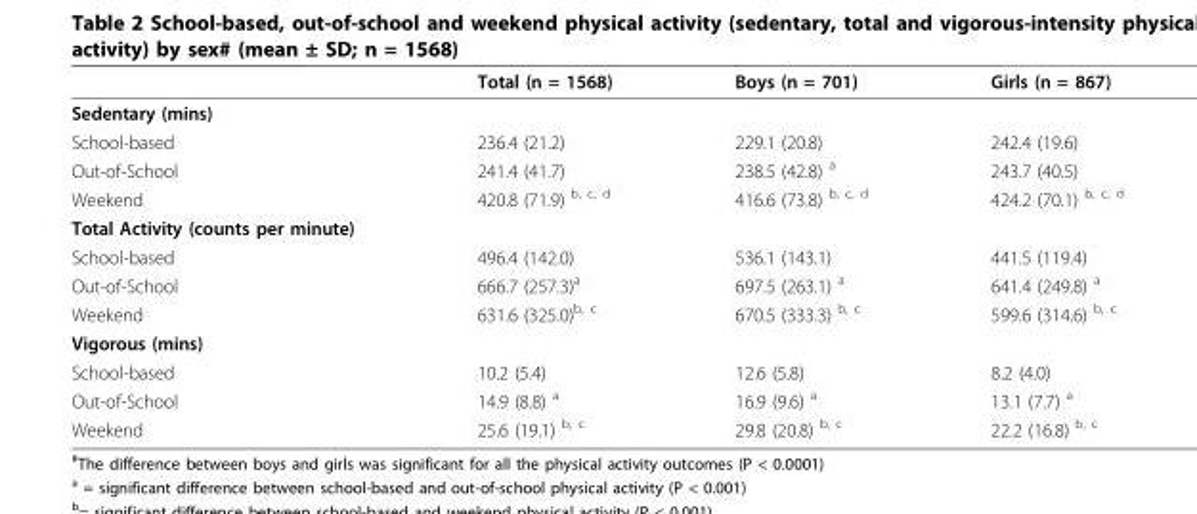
<table><thead><tr><td></td><td>Total (n = 1568)</td><td>Boys (n = 701)</td><td>Girls (n = 867)</td></tr></thead><tbody><tr><td colspan="4">Sedentary (mins)</td></tr><tr><td>School-based</td><td>236.4 (21.2)</td><td>229.1 (20.8)</td><td>242.4 (19.6)</td></tr><tr><td>Out-of-School</td><td>241.4 (41.7)</td><td>238.5 (42.8) <sup>a</sup></td><td>243.7 (40.5)</td></tr><tr><td>Weekend</td><td>420.8 (71.9) <sup>b, c, d</sup></td><td>416.6 (73.8) <sup>b, c, d</sup></td><td>424.2 (70.1) <sup>b, c, d</sup></td></tr><tr><td colspan="4">Total Activity (counts per minute)</td></tr><tr><td>School-based</td><td>496.4 (142.0)</td><td>536.1 (143.1)</td><td>441.5 (119.4)</td></tr><tr><td>Out-of-School</td><td>666.7 (257.3)<sup>a</sup></td><td>697.5 (263.1) <sup>a</sup></td><td>641.4 (249.8) <sup>a</sup></td></tr><tr><td>Weekend</td><td>631.6 (325.0)<sup>b, c</sup></td><td>670.5 (333.3) <sup>b, c</sup></td><td>599.6 (314.6) <sup>b, c</sup></td></tr><tr><td colspan="4">Vigorous (mins)</td></tr><tr><td>School-based</td><td>10.2 (5.4)</td><td>12.6 (5.8)</td><td>8.2 (4.0)</td></tr><tr><td>Out-of-School</td><td>14.9 (8.8) <sup>a</sup></td><td>16.9 (9.6) <sup>a</sup></td><td>13.1 (7.7) <sup>a</sup></td></tr><tr><td>Weekend</td><td>25.6 (19.1) <sup>b, c</sup></td><td>29.8 (20.8) <sup>b, c</sup></td><td>22.2 (16.8) <sup>b, c</sup></td></tr></tbody></table>